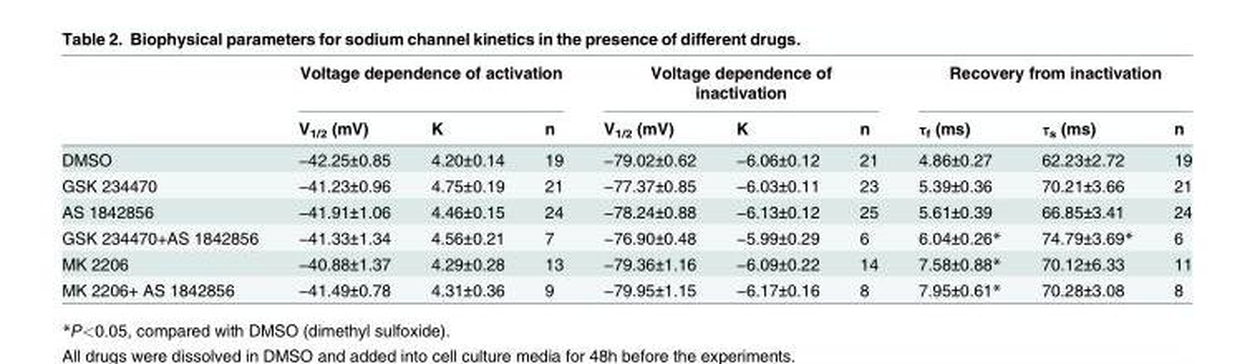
<table><thead><tr><td rowspan="2"></td><td colspan="3">Voltage dependence of activation</td><td colspan="3">Voltage dependence of inactivation</td><td colspan="3">Recovery from inactivation</td></tr><tr><td>V<sub>1/2</sub> (mV)</td><td>K</td><td>n</td><td>V<sub>1/2</sub> (mV)</td><td>K</td><td>n</td><td>τ<sub>f</sub> (ms)</td><td>τ<sub>s</sub> (ms)</td><td>n</td></tr></thead><tbody><tr><td>DMSO</td><td>−42.25±0.85</td><td>4.20±0.14</td><td>19</td><td>−79.02±0.62</td><td>−6.06±0.12</td><td>21</td><td>4.86±0.27</td><td>62.23±2.72</td><td>19</td></tr><tr><td>GSK 234470</td><td>−41.23±0.96</td><td>4.75±0.19</td><td>21</td><td>−77.37±0.85</td><td>−6.03±0.11</td><td>23</td><td>5.39±0.36</td><td>70.21±3.66</td><td>21</td></tr><tr><td>AS 1842856</td><td>−41.91±1.06</td><td>4.46±0.15</td><td>24</td><td>−78.24±0.88</td><td>−6.13±0.12</td><td>25</td><td>5.61±0.39</td><td>66.85±3.41</td><td>24</td></tr><tr><td>GSK 234470+AS 1842856</td><td>−41.33±1.34</td><td>4.56±0.21</td><td>7</td><td>−76.90±0.48</td><td>−5.99±0.29</td><td>6</td><td>6.04±0.26*</td><td>74.79±3.69*</td><td>6</td></tr><tr><td>MK 2206</td><td>−40.88±1.37</td><td>4.29±0.28</td><td>13</td><td>−79.36±1.16</td><td>−6.09±0.22</td><td>14</td><td>7.58±0.88*</td><td>70.12±6.33</td><td>11</td></tr><tr><td>MK 2206+ AS 1842856</td><td>−41.49±0.78</td><td>4.31±0.36</td><td>9</td><td>−79.95±1.15</td><td>−6.17±0.16</td><td>8</td><td>7.95±0.61*</td><td>70.28±3.08</td><td>8</td></tr></tbody></table>